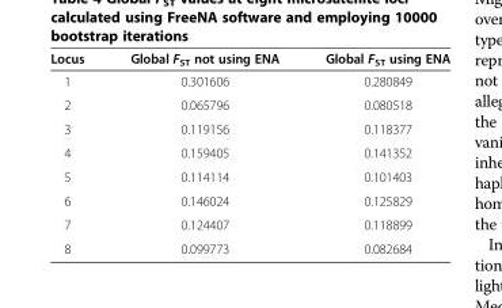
<table><thead><tr><td>Locus</td><td>Global F<sub>ST</sub> not using ENA</td><td>Global F<sub>ST</sub> using ENA</td></tr></thead><tbody><tr><td>1</td><td>0.301606</td><td>0.280849</td></tr><tr><td>2</td><td>0.065796</td><td>0.080518</td></tr><tr><td>3</td><td>0.119156</td><td>0.118377</td></tr><tr><td>4</td><td>0.159405</td><td>0.141352</td></tr><tr><td>5</td><td>0.114114</td><td>0.101403</td></tr><tr><td>6</td><td>0.146024</td><td>0.125829</td></tr><tr><td>7</td><td>0.124407</td><td>0.118899</td></tr><tr><td>8</td><td>0.099773</td><td>0.082684</td></tr></tbody></table>